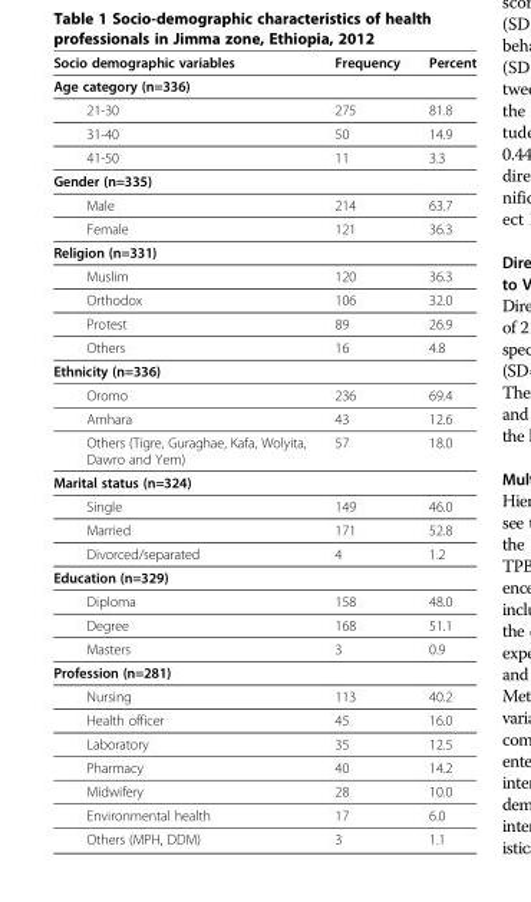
<table><thead><tr><td>Socio demographic variables</td><td>Frequency</td><td>Percent</td></tr></thead><tbody><tr><td colspan="3">Age category (n=336)</td></tr><tr><td>21-30</td><td>275</td><td>81.8</td></tr><tr><td>31-40</td><td>50</td><td>14.9</td></tr><tr><td>41-50</td><td>11</td><td>3.3</td></tr><tr><td colspan="3">Gender (n=335)</td></tr><tr><td>Male</td><td>214</td><td>63.7</td></tr><tr><td>Female</td><td>121</td><td>36.3</td></tr><tr><td colspan="3">Religion (n=331)</td></tr><tr><td>Muslim</td><td>120</td><td>36.3</td></tr><tr><td>Orthodox</td><td>106</td><td>32.0</td></tr><tr><td>Protest</td><td>89</td><td>26.9</td></tr><tr><td>Others</td><td>16</td><td>4.8</td></tr><tr><td colspan="3">Ethnicity (n=336)</td></tr><tr><td>Oromo</td><td>236</td><td>69.4</td></tr><tr><td>Amhara</td><td>43</td><td>12.6</td></tr><tr><td>Others (Tigre, Guraghae, Kafa, Wolyita, Dawro and Yem)</td><td>57</td><td>18.0</td></tr><tr><td colspan="3">Marital status (n=324)</td></tr><tr><td>Single</td><td>149</td><td>46.0</td></tr><tr><td>Married</td><td>171</td><td>52.8</td></tr><tr><td>Divorced/separated</td><td>4</td><td>1.2</td></tr><tr><td colspan="3">Education (n=329)</td></tr><tr><td>Diploma</td><td>158</td><td>48.0</td></tr><tr><td>Degree</td><td>168</td><td>51.1</td></tr><tr><td>Masters</td><td>3</td><td>0.9</td></tr><tr><td colspan="3">Profession (n=281)</td></tr><tr><td>Nursing</td><td>113</td><td>40.2</td></tr><tr><td>Health officer</td><td>45</td><td>16.0</td></tr><tr><td>Laboratory</td><td>35</td><td>12.5</td></tr><tr><td>Pharmacy</td><td>40</td><td>14.2</td></tr><tr><td>Midwifery</td><td>28</td><td>10.0</td></tr><tr><td>Environmental health</td><td>17</td><td>6.0</td></tr><tr><td>Others (MPH, DDM)</td><td>3</td><td>1.1</td></tr></tbody></table>